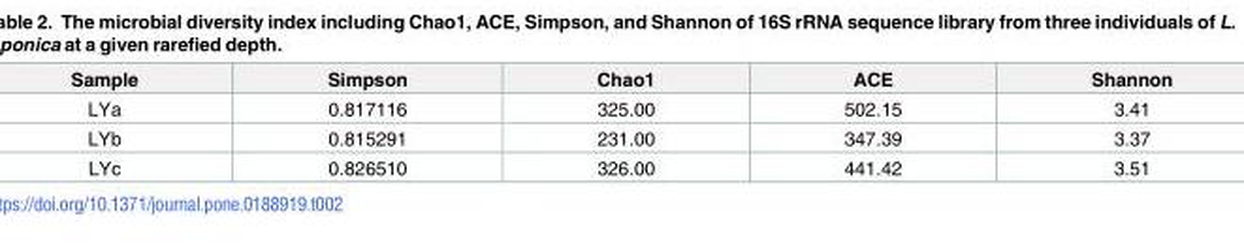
<table><thead><tr><td>Sample</td><td>Simpson</td><td>Chao1</td><td>ACE</td><td>Shannon</td></tr></thead><tbody><tr><td>LYa</td><td>0.817116</td><td>325.00</td><td>502.15</td><td>3.41</td></tr><tr><td>LYb</td><td>0.815291</td><td>231.00</td><td>347.39</td><td>3.37</td></tr><tr><td>LYc</td><td>0.826510</td><td>326.00</td><td>441.42</td><td>3.51</td></tr></tbody></table>